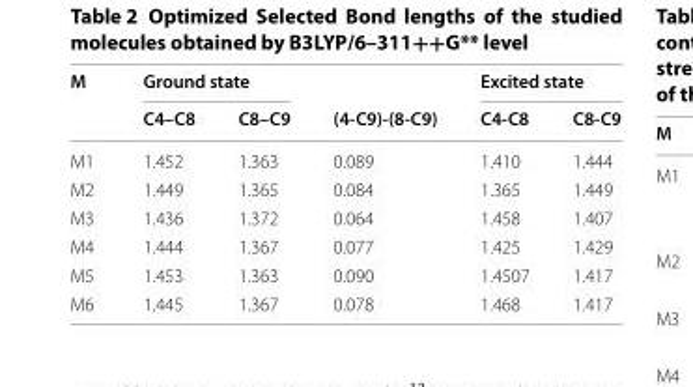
<table><thead><tr><td rowspan="2">M</td><td colspan="2">Ground state</td><td rowspan="2">(4-C9)-(8-C9)</td><td colspan="2">Excited state</td></tr><tr><td>C4–C8</td><td>C8–C9</td><td>C4-C8</td><td>C8-C9</td></tr></thead><tbody><tr><td>M1</td><td>1.452</td><td>1.363</td><td>0.089</td><td>1.410</td><td>1.444</td></tr><tr><td>M2</td><td>1.449</td><td>1.365</td><td>0.084</td><td>1.365</td><td>1.449</td></tr><tr><td>M3</td><td>1.436</td><td>1.372</td><td>0.064</td><td>1.458</td><td>1.407</td></tr><tr><td>M4</td><td>1.444</td><td>1.367</td><td>0.077</td><td>1.425</td><td>1.429</td></tr><tr><td>M5</td><td>1.453</td><td>1.363</td><td>0.090</td><td>1.4507</td><td>1.417</td></tr><tr><td>M6</td><td>1.445</td><td>1.367</td><td>0.078</td><td>1.468</td><td>1.417</td></tr></tbody></table>